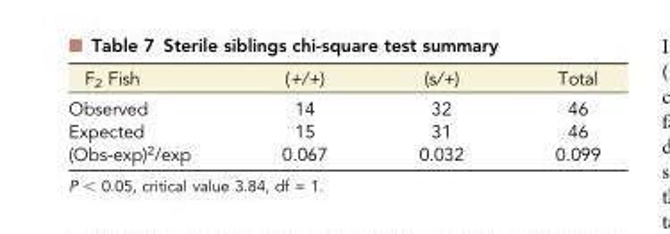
<table><thead><tr><td>F<sub>2</sub> Fish</td><td>(+/+)</td><td>(s/+)</td><td>Total</td></tr></thead><tbody><tr><td>Observed</td><td>14</td><td>32</td><td>46</td></tr><tr><td>Expected</td><td>15</td><td>31</td><td>46</td></tr><tr><td>(Obs-exp)<sup>2</sup>/exp</td><td>0.067</td><td>0.032</td><td>0.099</td></tr></tbody></table>